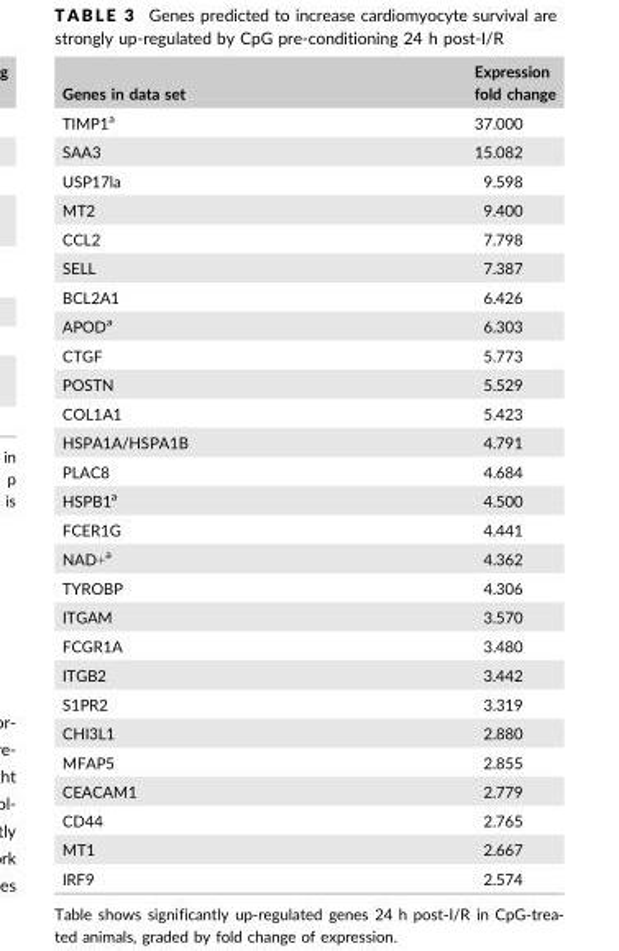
<table><thead><tr><td>Genes in data set</td><td>Expression fold change</td></tr></thead><tbody><tr><td>TIMP1<sup>a</sup></td><td>37.000</td></tr><tr><td>SAA3</td><td>15.082</td></tr><tr><td>USP17la</td><td>9.598</td></tr><tr><td>MT2</td><td>9.400</td></tr><tr><td>CCL2</td><td>7.798</td></tr><tr><td>SELL</td><td>7.387</td></tr><tr><td>BCL2A1</td><td>6.426</td></tr><tr><td>APOD<sup>a</sup></td><td>6.303</td></tr><tr><td>CTGF</td><td>5.773</td></tr><tr><td>POSTN</td><td>5.529</td></tr><tr><td>COL1A1</td><td>5.423</td></tr><tr><td>HSPA1A/HSPA1B</td><td>4.791</td></tr><tr><td>PLAC8</td><td>4.684</td></tr><tr><td>HSPB1<sup>a</sup></td><td>4.500</td></tr><tr><td>FCER1G</td><td>4.441</td></tr><tr><td>NAD+<sup>a</sup></td><td>4.362</td></tr><tr><td>TYROBP</td><td>4.306</td></tr><tr><td>ITGAM</td><td>3.570</td></tr><tr><td>FCGR1A</td><td>3.480</td></tr><tr><td>ITGB2</td><td>3.442</td></tr><tr><td>S1PR2</td><td>3.319</td></tr><tr><td>CHI3L1</td><td>2.880</td></tr><tr><td>MFAP5</td><td>2.855</td></tr><tr><td>CEACAM1</td><td>2.779</td></tr><tr><td>CD44</td><td>2.765</td></tr><tr><td>MT1</td><td>2.667</td></tr><tr><td>IRF9</td><td>2.574</td></tr></tbody></table>